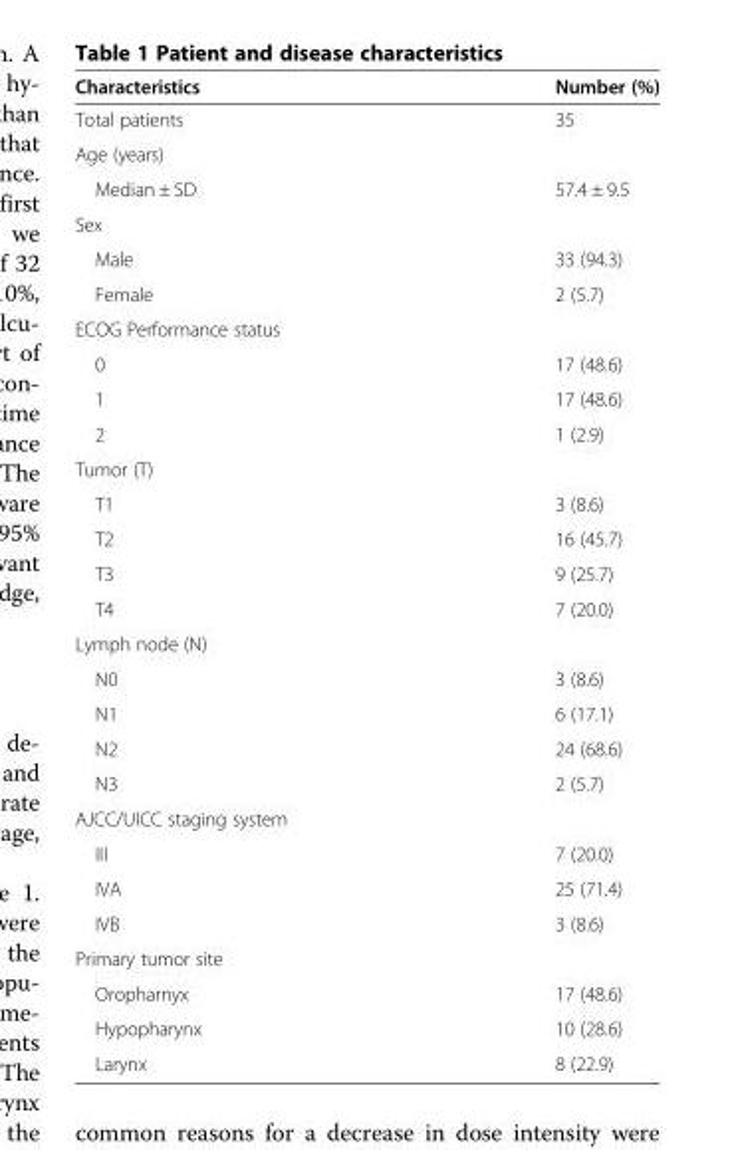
<table><thead><tr><td>Characteristics</td><td>Number (%)</td></tr></thead><tbody><tr><td>Total patients</td><td>35</td></tr><tr><td colspan="2">Age (years)</td></tr><tr><td>Median ± SD</td><td>57.4 ± 9.5</td></tr><tr><td colspan="2">Sex</td></tr><tr><td>Male</td><td>33 (94.3)</td></tr><tr><td>Female</td><td>2 (5.7)</td></tr><tr><td colspan="2">ECOG Performance status</td></tr><tr><td>0</td><td>17 (48.6)</td></tr><tr><td>1</td><td>17 (48.6)</td></tr><tr><td>2</td><td>1 (2.9)</td></tr><tr><td colspan="2">Tumor (T)</td></tr><tr><td>T1</td><td>3 (8.6)</td></tr><tr><td>T2</td><td>16 (45.7)</td></tr><tr><td>T3</td><td>9 (25.7)</td></tr><tr><td>T4</td><td>7 (20.0)</td></tr><tr><td colspan="2">Lymph node (N)</td></tr><tr><td>N0</td><td>3 (8.6)</td></tr><tr><td>N1</td><td>6 (17.1)</td></tr><tr><td>N2</td><td>24 (68.6)</td></tr><tr><td>N3</td><td>2 (5.7)</td></tr><tr><td colspan="2">AJCC/UICC staging system</td></tr><tr><td>III</td><td>7 (20.0)</td></tr><tr><td>IVA</td><td>25 (71.4)</td></tr><tr><td>IVB</td><td>3 (8.6)</td></tr><tr><td colspan="2">Primary tumor site</td></tr><tr><td>Oropharnyx</td><td>17 (48.6)</td></tr><tr><td>Hypopharynx</td><td>10 (28.6)</td></tr><tr><td>Larynx</td><td>8 (22.9)</td></tr></tbody></table>